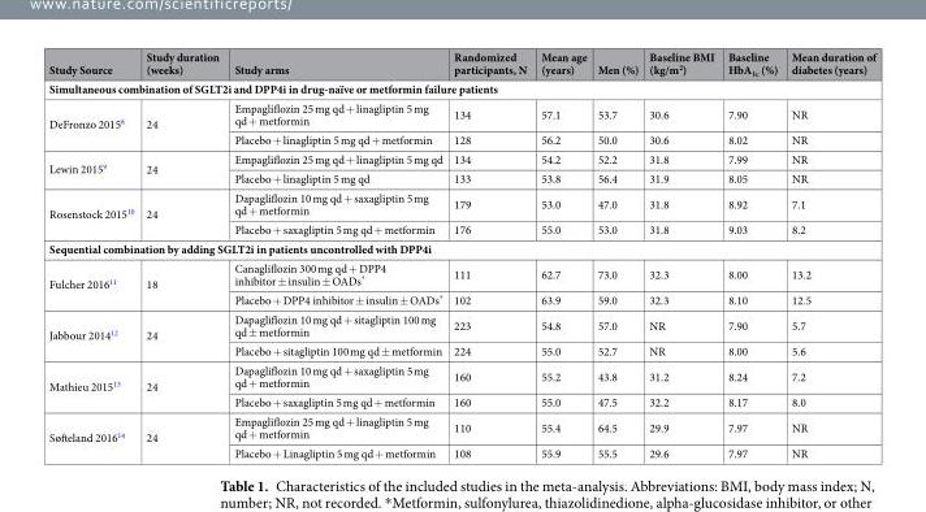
<table><thead><tr><td>Study Source</td><td>Study duration (weeks)</td><td>Study arms</td><td>Randomized participants, N</td><td>Mean age (years)</td><td>Men (%)</td><td>Baseline BMI (kg/m<sup>2</sup>)</td><td>Baseline HbA<sub>1c</sub> (%)</td><td>Mean duration of diabetes (years)</td></tr></thead><tbody><tr><td colspan="9">Simultaneous combination of SGLT2i and DPP4i in drug-naïve or metformin failure patients</td></tr><tr><td rowspan="2">DeFronzo 2015<sup>8</sup></td><td rowspan="2">24</td><td>Empagliflozin 25 mg qd + linagliptin 5 mg qd + metformin</td><td>134</td><td>57.1</td><td>53.7</td><td>30.6</td><td>7.90</td><td>NR</td></tr><tr><td>Placebo + linagliptin 5 mg qd + metformin</td><td>128</td><td>56.2</td><td>50.0</td><td>30.6</td><td>8.02</td><td>NR</td></tr><tr><td rowspan="2">Lewin 2015<sup>9</sup></td><td rowspan="2">24</td><td>Empagliflozin 25 mg qd + linagliptin 5 mg qd</td><td>134</td><td>54.2</td><td>52.2</td><td>31.8</td><td>7.99</td><td>NR</td></tr><tr><td>Placebo + linagliptin 5 mg qd</td><td>133</td><td>53.8</td><td>56.4</td><td>31.9</td><td>8.05</td><td>NR</td></tr><tr><td rowspan="2">Rosenstock 2015<sup>10</sup></td><td rowspan="2">24</td><td>Dapagliflozin 10 mg qd + saxagliptin 5 mg qd + metformin</td><td>179</td><td>53.0</td><td>47.0</td><td>31.8</td><td>8.92</td><td>7.1</td></tr><tr><td>Placebo + saxagliptin 5 mg qd + metformin</td><td>176</td><td>55.0</td><td>53.0</td><td>31.8</td><td>9.03</td><td>8.2</td></tr><tr><td colspan="9">Sequential combination by adding SGLT2i in patients uncontrolled with DPP4i</td></tr><tr><td rowspan="2">Fulcher 2016<sup>11</sup></td><td rowspan="2">18</td><td>Canagliflozin 300 mg qd + DPP4 inhibitor ± insulin ± OADs*</td><td>111</td><td>62.7</td><td>73.0</td><td>32.3</td><td>8.00</td><td>13.2</td></tr><tr><td>Placebo + DPP4 inhibitor ± insulin ± OADs*</td><td>102</td><td>63.9</td><td>59.0</td><td>32.3</td><td>8.10</td><td>12.5</td></tr><tr><td rowspan="2">Jabbour 2014<sup>12</sup></td><td rowspan="2">24</td><td>Dapagliflozin 10 mg qd + sitagliptin 100 mg qd ± metformin</td><td>223</td><td>54.8</td><td>57.0</td><td>NR</td><td>7.90</td><td>5.7</td></tr><tr><td>Placebo + sitagliptin 100 mg qd ± metformin</td><td>224</td><td>55.0</td><td>52.7</td><td>NR</td><td>8.00</td><td>5.6</td></tr><tr><td rowspan="2">Mathieu 2015<sup>13</sup></td><td rowspan="2">24</td><td>Dapagliflozin 10 mg qd + saxagliptin 5 mg qd + metformin</td><td>160</td><td>55.2</td><td>43.8</td><td>31.2</td><td>8.24</td><td>7.2</td></tr><tr><td>Placebo + saxagliptin 5 mg qd + metformin</td><td>160</td><td>55.0</td><td>47.5</td><td>32.2</td><td>8.17</td><td>8.0</td></tr><tr><td rowspan="2">Søfteland 2016<sup>14</sup></td><td rowspan="2">24</td><td>Empagliflozin 25 mg qd + linagliptin 5 mg qd + metformin</td><td>110</td><td>55.4</td><td>64.5</td><td>29.9</td><td>7.97</td><td>NR</td></tr><tr><td>Placebo + Linagliptin 5 mg qd + metformin</td><td>108</td><td>55.9</td><td>55.5</td><td>29.6</td><td>7.97</td><td>NR</td></tr></tbody></table>